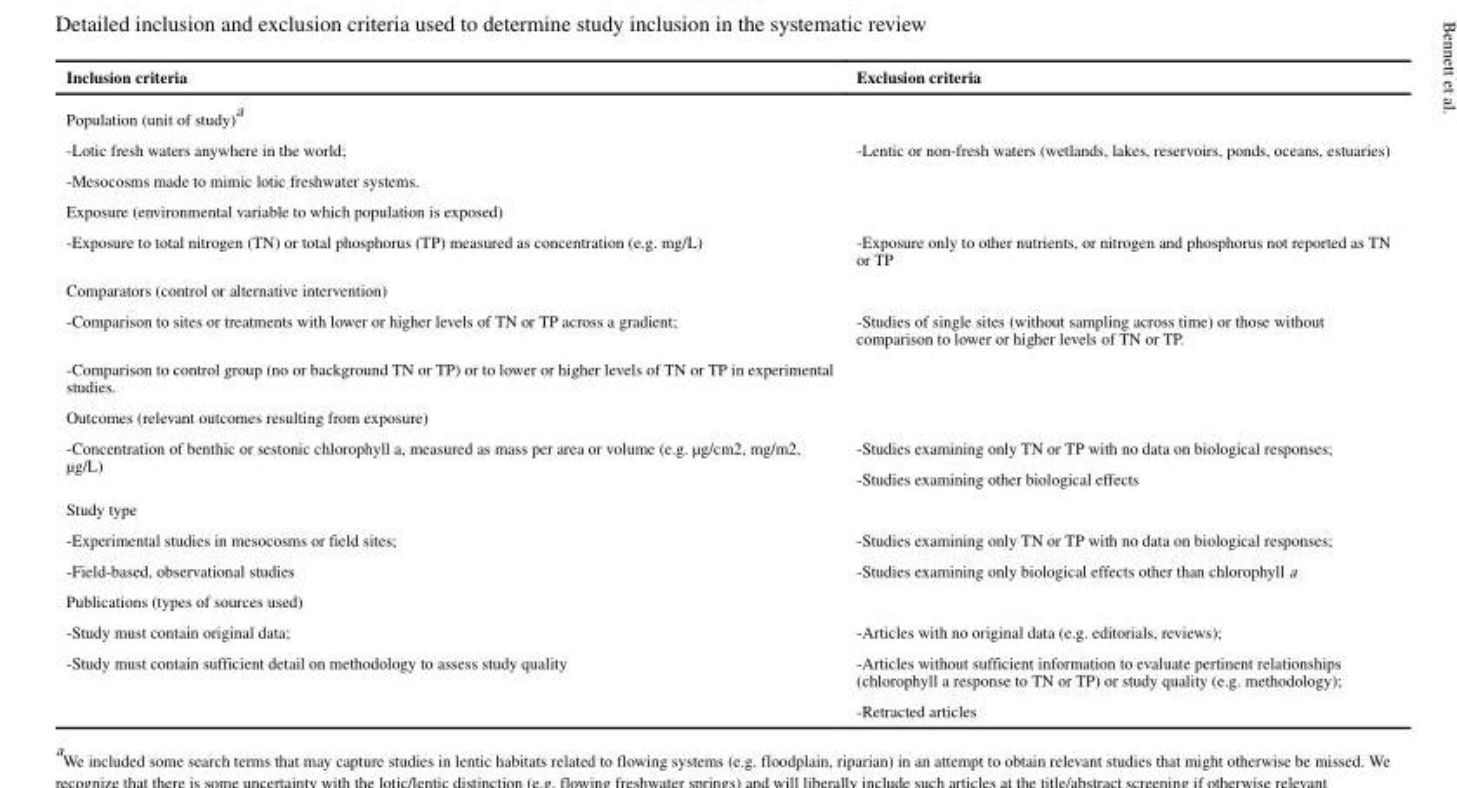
<table><thead><tr><td>Inclusion criteria</td><td>Exclusion criteria</td></tr></thead><tbody><tr><td colspan="2">Population (unit of study)<sup>a</sup></td></tr><tr><td>-Lotic fresh waters anywhere in the world;</td><td rowspan="2">-Lentic or non-fresh waters (wetlands, lakes, reservoirs, ponds, oceans, estuaries)</td></tr><tr><td>-Mesocosms made to mimic lotic freshwater systems.</td></tr><tr><td colspan="2">Exposure (environmental variable to which population is exposed)</td></tr><tr><td>-Exposure to total nitrogen (TN) or total phosphorus (TP) measured as concentration (e.g. mg/L)</td><td>-Exposure only to other nutrients, or nitrogen and phosphorus not reported as TN or TP</td></tr><tr><td colspan="2">Comparators (control or alternative intervention)</td></tr><tr><td>-Comparison to sites or treatments with lower or higher levels of TN or TP across a gradient;</td><td>-Studies of single sites (without sampling across time) or those without comparison to lower or higher levels of TN or TP.</td></tr><tr><td colspan="2">-Comparison to control group (no or background TN or TP) or to lower or higher levels of TN or TP in experimental studies.</td></tr><tr><td colspan="2">Outcomes (relevant outcomes resulting from exposure)</td></tr><tr><td rowspan="2">-Concentration of benthic or sestonic chlorophyll a, measured as mass per area or volume (e.g. μg/cm2, mg/m2, μg/L)</td><td>-Studies examining only TN or TP with no data on biological responses;</td></tr><tr><td>-Studies examining other biological effects</td></tr><tr><td colspan="2">Study type</td></tr><tr><td>-Experimental studies in mesocosms or field sites;</td><td>-Studies examining only TN or TP with no data on biological responses;</td></tr><tr><td>-Field-based, observational studies</td><td>-Studies examining only biological effects other than chlorophyll a</td></tr><tr><td colspan="2">Publications (types of sources used)</td></tr><tr><td>-Study must contain original data;</td><td>-Articles with no original data (e.g. editorials, reviews);</td></tr><tr><td rowspan="2">-Study must contain sufficient detail on methodology to assess study quality</td><td>-Articles without sufficient information to evaluate pertinent relationships (chlorophyll a response to TN or TP) or study quality (e.g. methodology);</td></tr><tr><td>-Retracted articles</td></tr></tbody></table>